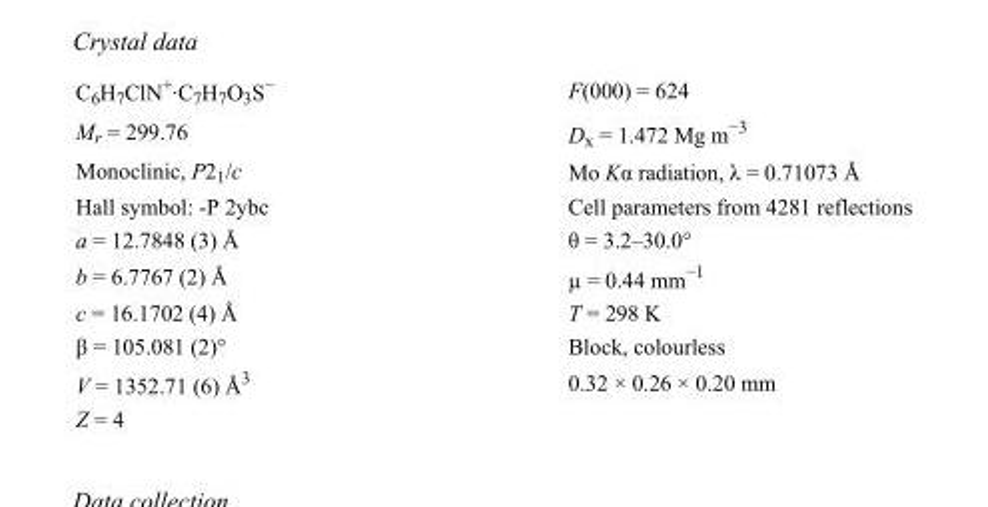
<table><tbody><tr><td>C<sub>6</sub>H<sub>7</sub>ClN<sup>+</sup>·C<sub>7</sub>H<sub>7</sub>O<sub>3</sub>S<sup>−</sup></td><td>F(000) = 624</td></tr><tr><td>M<sub>r</sub> = 299.76</td><td>D<sub>x</sub> = 1.472 Mg m<sup>−3</sup></td></tr><tr><td>Monoclinic, P2<sub>1</sub>/c</td><td>Mo Kα radiation, λ = 0.71073 Å</td></tr><tr><td>Hall symbol: -P 2ybc</td><td>Cell parameters from 4281 reflections</td></tr><tr><td>a = 12.7848 (3) Å</td><td>θ = 3.2–30.0°</td></tr><tr><td>b = 6.7767 (2) Å</td><td>µ = 0.44 mm<sup>−1</sup></td></tr><tr><td>c = 16.1702 (4) Å</td><td>T = 298 K</td></tr><tr><td>β = 105.081 (2)°</td><td>Block, colourless</td></tr><tr><td>V = 1352.71 (6) Å<sup>3</sup></td><td>0.32 × 0.26 × 0.20 mm</td></tr><tr><td>Z = 4</td><td></td></tr></tbody></table>